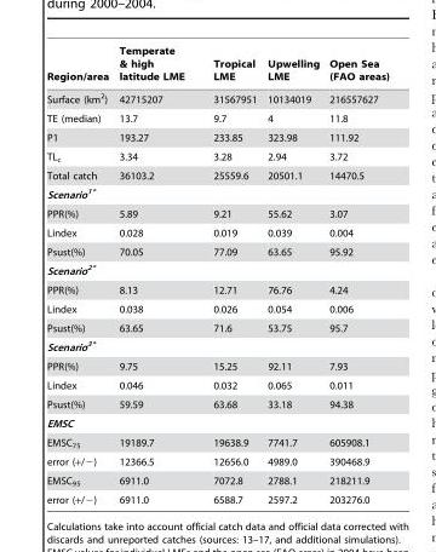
<table><thead><tr><td>Region/area</td><td>Temperate &amp; high latitude LME</td><td>Tropical LME</td><td>Upwelling LME</td><td>Open Sea (FAO areas)</td></tr></thead><tbody><tr><td>Surface (km<sup>2</sup>)</td><td>42715207</td><td>31567951</td><td>10134019</td><td>216557627</td></tr><tr><td>TE (median)</td><td>13.7</td><td>9.7</td><td>4</td><td>11.8</td></tr><tr><td>P1</td><td>193.27</td><td>233.85</td><td>323.98</td><td>111.92</td></tr><tr><td>TL<sub>c</sub></td><td>3.34</td><td>3.28</td><td>2.94</td><td>3.72</td></tr><tr><td>Total catch</td><td>36103.2</td><td>25559.6</td><td>20501.1</td><td>14470.5</td></tr><tr><td colspan="5">Scenario<sup>1*</sup></td></tr><tr><td>PPR(%)</td><td>5.89</td><td>9.21</td><td>55.62</td><td>3.07</td></tr><tr><td>Lindex</td><td>0.028</td><td>0.019</td><td>0.039</td><td>0.004</td></tr><tr><td>Psust(%)</td><td>70.05</td><td>77.09</td><td>63.65</td><td>95.92</td></tr><tr><td colspan="5">Scenario<sup>2*</sup></td></tr><tr><td>PPR(%)</td><td>8.13</td><td>12.71</td><td>76.76</td><td>4.24</td></tr><tr><td>Lindex</td><td>0.038</td><td>0.026</td><td>0.054</td><td>0.006</td></tr><tr><td>Psust(%)</td><td>63.65</td><td>71.6</td><td>53.75</td><td>95.7</td></tr><tr><td colspan="5">Scenario<sup>3*</sup></td></tr><tr><td>PPR(%)</td><td>9.75</td><td>15.25</td><td>92.11</td><td>7.93</td></tr><tr><td>Lindex</td><td>0.046</td><td>0.032</td><td>0.065</td><td>0.011</td></tr><tr><td>Psust(%)</td><td>59.59</td><td>63.68</td><td>33.18</td><td>94.38</td></tr><tr><td colspan="5">EMSC</td></tr><tr><td>EMSC<sub>75</sub></td><td>19189.7</td><td>19638.9</td><td>7741.7</td><td>605908.1</td></tr><tr><td>error (+/−)</td><td>12366.5</td><td>12656.0</td><td>4989.0</td><td>390468.9</td></tr><tr><td>EMSC<sub>95</sub></td><td>6911.0</td><td>7072.8</td><td>2788.1</td><td>218211.9</td></tr><tr><td>error (+/−)</td><td>6911.0</td><td>6588.7</td><td>2597.2</td><td>203276.0</td></tr></tbody></table>